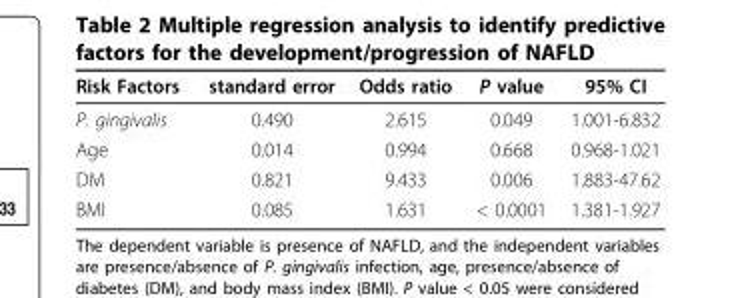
<table><thead><tr><td>Risk Factors</td><td>standard error</td><td>Odds ratio</td><td>P value</td><td>95% CI</td></tr></thead><tbody><tr><td>P. gingivalis</td><td>0.490</td><td>2.615</td><td>0.049</td><td>1.001-6.832</td></tr><tr><td>Age</td><td>0.014</td><td>0.994</td><td>0.668</td><td>0.968-1.021</td></tr><tr><td>DM</td><td>0.821</td><td>9.433</td><td>0.006</td><td>1.883-47.62</td></tr><tr><td>BMI</td><td>0.085</td><td>1.631</td><td>&lt; 0.0001</td><td>1.381-1.927</td></tr></tbody></table>